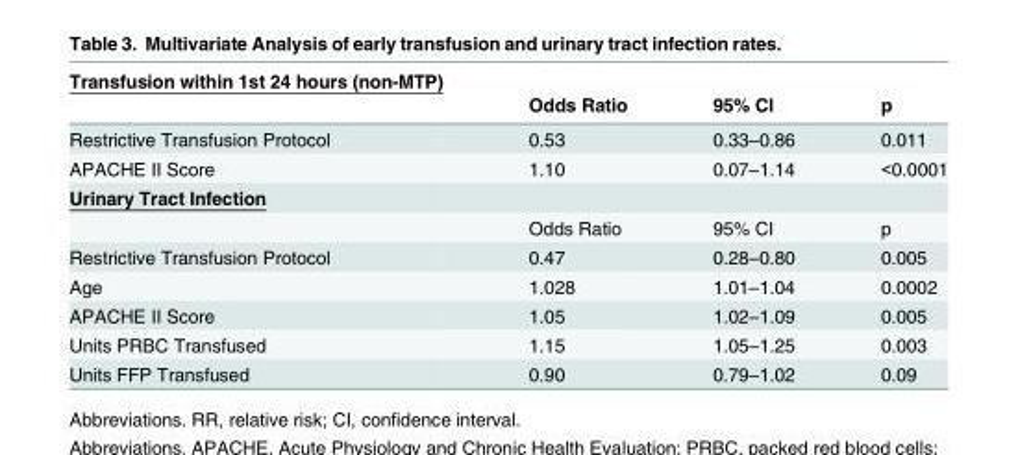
<table><thead><tr><td rowspan="2">Transfusion within 1st 24 hours (non-MTP)</td><td rowspan="2">Odds Ratio</td><td rowspan="2">95% CI</td><td rowspan="2">p</td></tr><tr></tr></thead><tbody><tr><td>Restrictive Transfusion Protocol</td><td>0.53</td><td>0.33–0.86</td><td>0.011</td></tr><tr><td>APACHE II Score</td><td>1.10</td><td>0.07–1.14</td><td>&lt;0.0001</td></tr><tr><td colspan="4">Urinary Tract Infection</td></tr><tr><td></td><td>Odds Ratio</td><td>95% CI</td><td>p</td></tr><tr><td>Restrictive Transfusion Protocol</td><td>0.47</td><td>0.28–0.80</td><td>0.005</td></tr><tr><td>Age</td><td>1.028</td><td>1.01–1.04</td><td>0.0002</td></tr><tr><td>APACHE II Score</td><td>1.05</td><td>1.02–1.09</td><td>0.005</td></tr><tr><td>Units PRBC Transfused</td><td>1.15</td><td>1.05–1.25</td><td>0.003</td></tr><tr><td>Units FFP Transfused</td><td>0.90</td><td>0.79–1.02</td><td>0.09</td></tr></tbody></table>